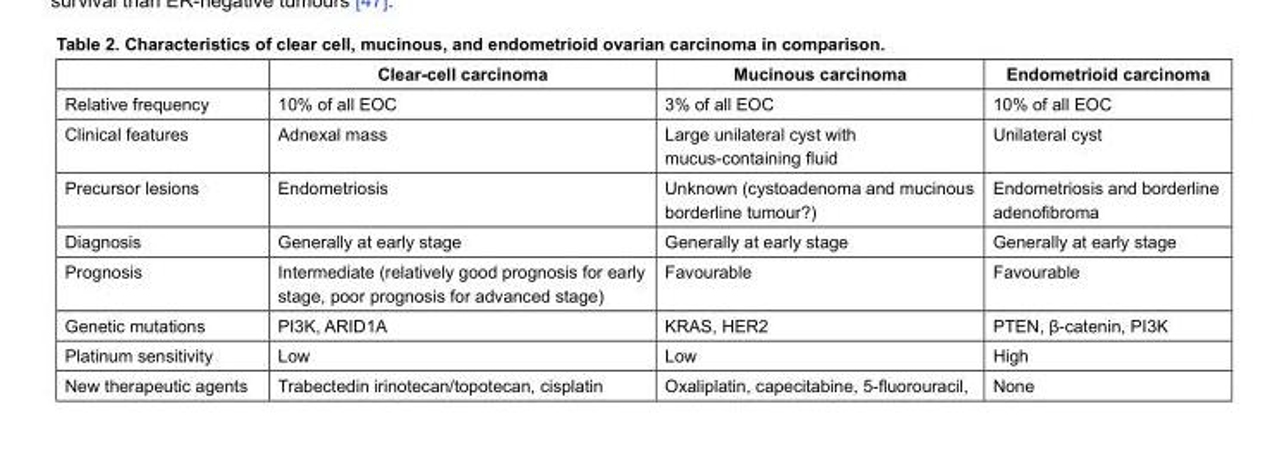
<table><thead><tr><td></td><td>Clear-cell carcinoma</td><td>Mucinous carcinoma</td><td>Endometrioid carcinoma</td></tr></thead><tbody><tr><td>Relative frequency</td><td>10% of all EOC</td><td>3% of all EOC</td><td>10% of all EOC</td></tr><tr><td>Clinical features</td><td>Adnexal mass</td><td>Large unilateral cyst with mucus-containing fluid</td><td>Unilateral cyst</td></tr><tr><td>Precursor lesions</td><td>Endometriosis</td><td>Unknown (cystoadenoma and mucinous borderline tumour?)</td><td>Endometriosis and borderline adenofibroma</td></tr><tr><td>Diagnosis</td><td>Generally at early stage</td><td>Generally at early stage</td><td>Generally at early stage</td></tr><tr><td>Prognosis</td><td>Intermediate (relatively good prognosis for early stage, poor prognosis for advanced stage)</td><td>Favourable</td><td>Favourable</td></tr><tr><td>Genetic mutations</td><td>PI3K, ARID1A</td><td>KRAS, HER2</td><td>PTEN, β-catenin, PI3K</td></tr><tr><td>Platinum sensitivity</td><td>Low</td><td>Low</td><td>High</td></tr><tr><td>New therapeutic agents</td><td>Trabectedin irinotecan/topotecan, cisplatin</td><td>Oxaliplatin, capecitabine, 5-fluorouracil,</td><td>None</td></tr></tbody></table>